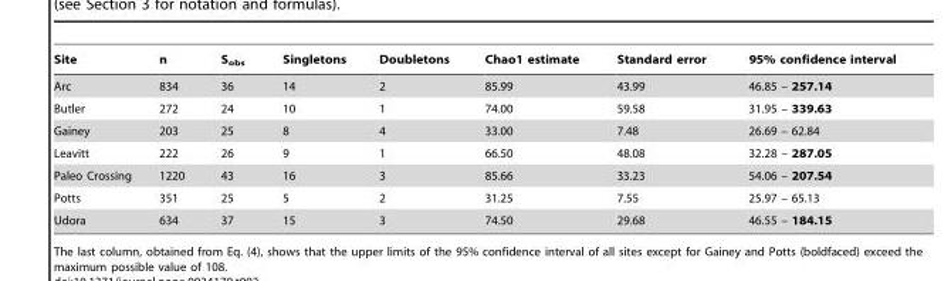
<table><thead><tr><td>Site</td><td>n</td><td>S<sub>obs</sub></td><td>Singletons</td><td>Doubletons</td><td>Chao1 estimate</td><td>Standard error</td><td>95% confidence interval</td></tr></thead><tbody><tr><td>Arc</td><td>834</td><td>36</td><td>14</td><td>2</td><td>85.99</td><td>43.99</td><td>46.85 – 257.14</td></tr><tr><td>Butler</td><td>272</td><td>24</td><td>10</td><td>1</td><td>74.00</td><td>59.58</td><td>31.95 – 339.63</td></tr><tr><td>Gainey</td><td>203</td><td>25</td><td>8</td><td>4</td><td>33.00</td><td>7.48</td><td>26.69 – 62.84</td></tr><tr><td>Leavitt</td><td>222</td><td>26</td><td>9</td><td>1</td><td>66.50</td><td>48.08</td><td>32.28 – 287.05</td></tr><tr><td>Paleo Crossing</td><td>1220</td><td>43</td><td>16</td><td>3</td><td>85.66</td><td>33.23</td><td>54.06 – 207.54</td></tr><tr><td>Potts</td><td>351</td><td>25</td><td>5</td><td>2</td><td>31.25</td><td>7.55</td><td>25.97 – 65.13</td></tr><tr><td>Udora</td><td>634</td><td>37</td><td>15</td><td>3</td><td>74.50</td><td>29.68</td><td>46.55 – 184.15</td></tr></tbody></table>